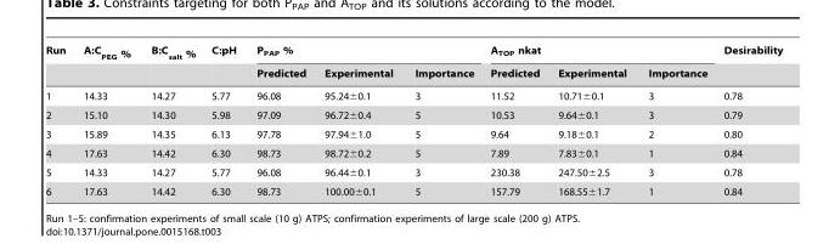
<table><thead><tr><td rowspan="2">Run</td><td rowspan="2">A:C<sub>PEG</sub> %</td><td rowspan="2">B:C<sub>salt</sub> %</td><td rowspan="2">C:pH</td><td colspan="3">P<sub>PAP</sub> %</td><td colspan="3">A<sub>TOP</sub> nkat</td><td rowspan="2">Desirability</td></tr><tr><td>Predicted</td><td>Experimental</td><td>Importance</td><td>Predicted</td><td>Experimental</td><td>Importance</td></tr></thead><tbody><tr><td>1</td><td>14.33</td><td>14.27</td><td>5.77</td><td>96.08</td><td>95.24±0.1</td><td>3</td><td>11.52</td><td>10.71±0.1</td><td>3</td><td>0.78</td></tr><tr><td>2</td><td>15.10</td><td>14.30</td><td>5.98</td><td>97.09</td><td>96.72±0.4</td><td>5</td><td>10.53</td><td>9.64±0.1</td><td>3</td><td>0.79</td></tr><tr><td>3</td><td>15.89</td><td>14.35</td><td>6.13</td><td>97.78</td><td>97.94±1.0</td><td>5</td><td>9.64</td><td>9.18±0.1</td><td>2</td><td>0.80</td></tr><tr><td>4</td><td>17.63</td><td>14.42</td><td>6.30</td><td>98.73</td><td>98.72±0.2</td><td>5</td><td>7.89</td><td>7.83±0.1</td><td>1</td><td>0.84</td></tr><tr><td>5</td><td>14.33</td><td>14.27</td><td>5.77</td><td>96.08</td><td>96.44±0.1</td><td>3</td><td>230.38</td><td>247.50±2.5</td><td>3</td><td>0.78</td></tr><tr><td>6</td><td>17.63</td><td>14.42</td><td>6.30</td><td>98.73</td><td>100.00±0.1</td><td>5</td><td>157.79</td><td>168.55±1.7</td><td>1</td><td>0.84</td></tr></tbody></table>